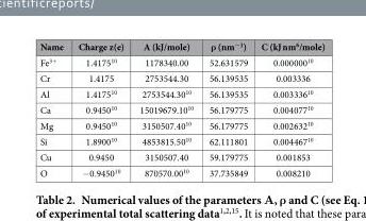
<table><thead><tr><td>Name</td><td>Charge z(e)</td><td>A (kJ/mole)</td><td>ρ (nm<sup>−1</sup>)</td><td>C (kJ nm<sup>6</sup>/mole)</td></tr></thead><tbody><tr><td>Fe<sup>3+</sup></td><td>1.4175<sup>10</sup></td><td>1178340.00</td><td>52.631579</td><td>0.000000<sup>10</sup></td></tr><tr><td>Cr</td><td>1.4175</td><td>2753544.30</td><td>56.139535</td><td>0.003336</td></tr><tr><td>Al</td><td>1.4175<sup>10</sup></td><td>2753544.30<sup>10</sup></td><td>56.139535</td><td>0.003336<sup>10</sup></td></tr><tr><td>Ca</td><td>0.9450<sup>10</sup></td><td>15019679.10<sup>10</sup></td><td>56.179775</td><td>0.004077<sup>10</sup></td></tr><tr><td>Mg</td><td>0.9450<sup>10</sup></td><td>3150507.40<sup>10</sup></td><td>56.179775</td><td>0.002632<sup>10</sup></td></tr><tr><td>Si</td><td>1.8900<sup>10</sup></td><td>4853815.50<sup>10</sup></td><td>62.111801</td><td>0.004467<sup>10</sup></td></tr><tr><td>Cu</td><td>0.9450</td><td>3150507.40</td><td>59.179775</td><td>0.001853</td></tr><tr><td>O</td><td>− 0.9450<sup>10</sup></td><td>870570.00<sup>10</sup></td><td>37.735849</td><td>0.008210</td></tr></tbody></table>